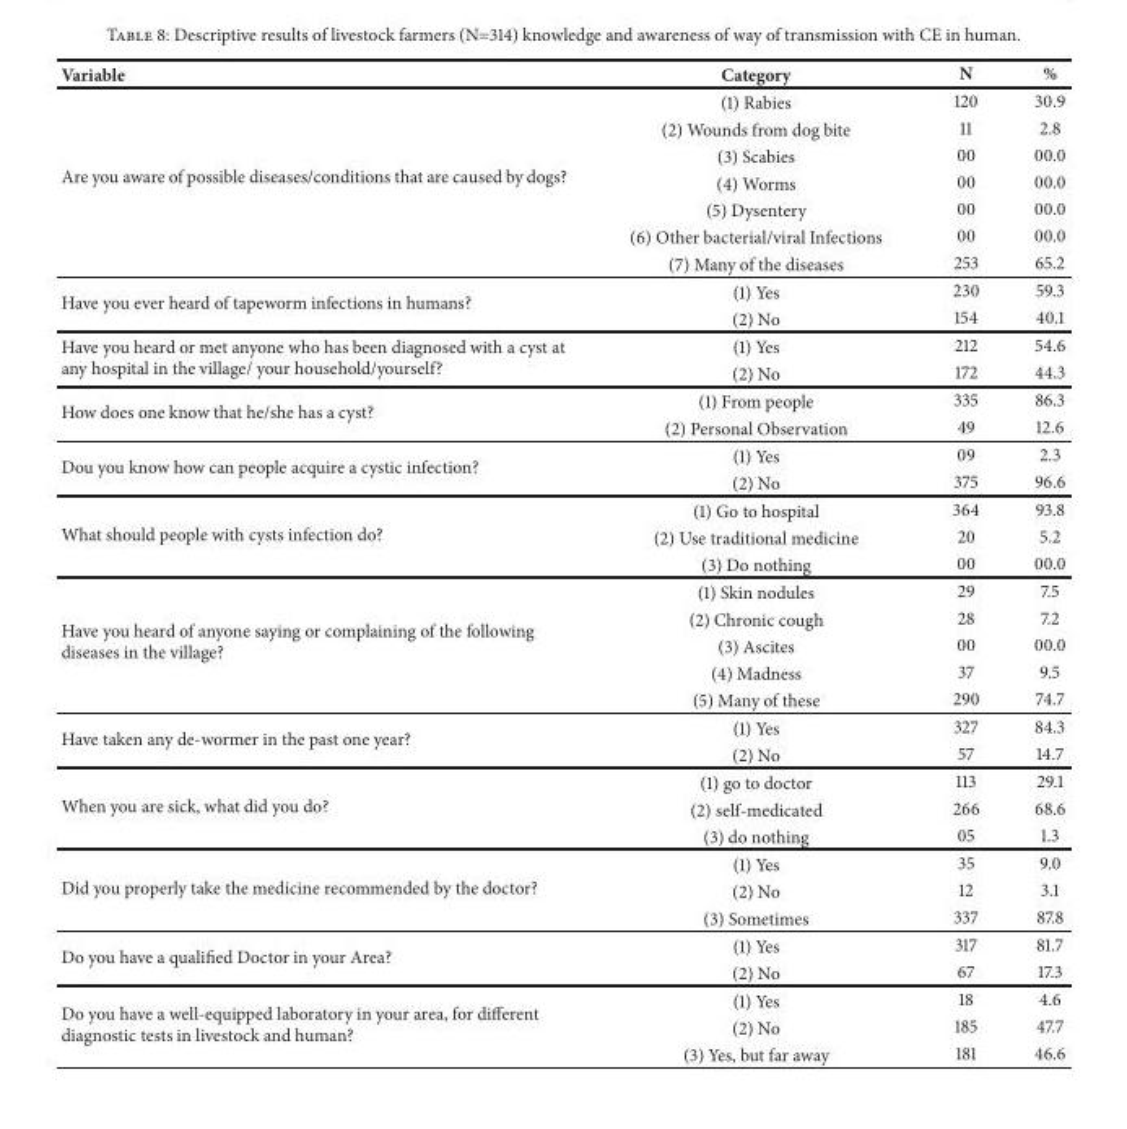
<table><thead><tr><td>Variable</td><td>Category</td><td>N</td><td>%</td></tr></thead><tbody><tr><td rowspan="7">Are you aware of possible diseases/conditions that are caused by dogs?</td><td>(1) Rabies</td><td>120</td><td>30.9</td></tr><tr><td>(2) Wounds from dog bite</td><td>11</td><td>2.8</td></tr><tr><td>(3) Scabies</td><td>00</td><td>00.0</td></tr><tr><td>(4) Worms</td><td>00</td><td>00.0</td></tr><tr><td>(5) Dysentery</td><td>00</td><td>00.0</td></tr><tr><td>(6) Other bacterial/viral Infections</td><td>00</td><td>00.0</td></tr><tr><td>(7) Many of the diseases</td><td>253</td><td>65.2</td></tr><tr><td rowspan="2">Have you ever heard of tapeworm infections in humans?</td><td>(1) Yes</td><td>230</td><td>59.3</td></tr><tr><td>(2) No</td><td>154</td><td>40.1</td></tr><tr><td rowspan="2">Have you heard or met anyone who has been diagnosed with a cyst at any hospital in the village/ your household/yourself?</td><td>(1) Yes</td><td>212</td><td>54.6</td></tr><tr><td>(2) No</td><td>172</td><td>44.3</td></tr><tr><td rowspan="2">How does one know that he/she has a cyst?</td><td>(1) From people</td><td>335</td><td>86.3</td></tr><tr><td>(2) Personal Observation</td><td>49</td><td>12.6</td></tr><tr><td rowspan="2">Dou you know how can people acquire a cystic infection?</td><td>(1) Yes</td><td>09</td><td>2.3</td></tr><tr><td>(2) No</td><td>375</td><td>96.6</td></tr><tr><td rowspan="3">What should people with cysts infection do?</td><td>(1) Go to hospital</td><td>364</td><td>93.8</td></tr><tr><td>(2) Use traditional medicine</td><td>20</td><td>5.2</td></tr><tr><td>(3) Do nothing</td><td>00</td><td>00.0</td></tr><tr><td rowspan="5">Have you heard of anyone saying or complaining of the following diseases in the village?</td><td>(1) Skin nodules</td><td>29</td><td>7.5</td></tr><tr><td>(2) Chronic cough</td><td>28</td><td>7.2</td></tr><tr><td>(3) Ascites</td><td>00</td><td>00.0</td></tr><tr><td>(4) Madness</td><td>37</td><td>9.5</td></tr><tr><td>(5) Many of these</td><td>290</td><td>74.7</td></tr><tr><td rowspan="2">Have taken any de-wormer in the past one year?</td><td>(1) Yes</td><td>327</td><td>84.3</td></tr><tr><td>(2) No</td><td>57</td><td>14.7</td></tr><tr><td rowspan="3">When you are sick, what did you do?</td><td>(1) go to doctor</td><td>113</td><td>29.1</td></tr><tr><td>(2) self-medicated</td><td>266</td><td>68.6</td></tr><tr><td>(3) do nothing</td><td>05</td><td>1.3</td></tr><tr><td rowspan="3">Did you properly take the medicine recommended by the doctor?</td><td>(1) Yes</td><td>35</td><td>9.0</td></tr><tr><td>(2) No</td><td>12</td><td>3.1</td></tr><tr><td>(3) Sometimes</td><td>337</td><td>87.8</td></tr><tr><td rowspan="2">Do you have a qualified Doctor in your Area?</td><td>(1) Yes</td><td>317</td><td>81.7</td></tr><tr><td>(2) No</td><td>67</td><td>17.3</td></tr><tr><td rowspan="3">Do you have a well-equipped laboratory in your area, for different diagnostic tests in livestock and human?</td><td>(1) Yes</td><td>18</td><td>4.6</td></tr><tr><td>(2) No</td><td>185</td><td>47.7</td></tr><tr><td>(3) Yes, but far away</td><td>181</td><td>46.6</td></tr></tbody></table>